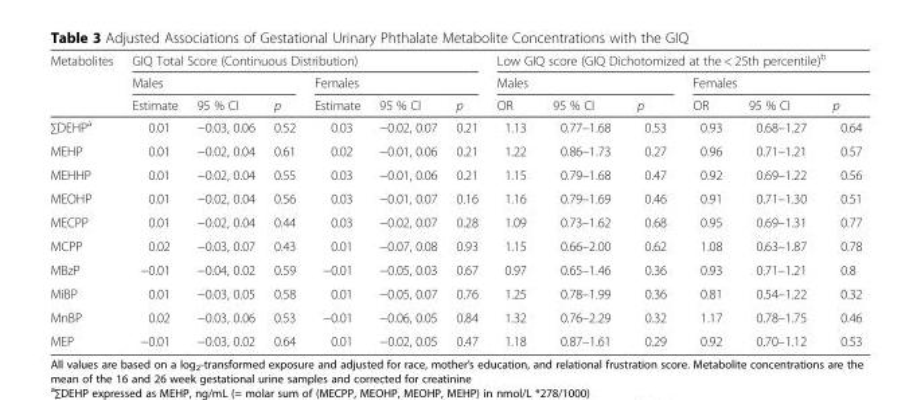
<table><thead><tr><td rowspan="3">Metabolites</td><td colspan="6">GIQ Total Score (Continuous Distribution)</td><td colspan="6">Low GIQ score (GIQ Dichotomized at the &lt; 25th percentile)<sup>b</sup></td></tr><tr><td colspan="3">Males</td><td colspan="3">Females</td><td colspan="3">Males</td><td colspan="3">Females</td></tr><tr><td>Estimate</td><td>95 % CI</td><td>p</td><td>Estimate</td><td>95 % CI</td><td>p</td><td>OR</td><td>95 % CI</td><td>p</td><td>OR</td><td>95 % CI</td><td>p</td></tr></thead><tbody><tr><td>∑DEHP<sup>a</sup></td><td>0.01</td><td>−0.03, 0.06</td><td>0.52</td><td>0.03</td><td>−0.02, 0.07</td><td>0.21</td><td>1.13</td><td>0.77–1.68</td><td>0.53</td><td>0.93</td><td>0.68–1.27</td><td>0.64</td></tr><tr><td>MEHP</td><td>0.01</td><td>−0.02, 0.04</td><td>0.61</td><td>0.02</td><td>−0.01, 0.06</td><td>0.21</td><td>1.22</td><td>0.86–1.73</td><td>0.27</td><td>0.96</td><td>0.71–1.21</td><td>0.57</td></tr><tr><td>MEHHP</td><td>0.01</td><td>−0.02, 0.04</td><td>0.55</td><td>0.03</td><td>−0.01, 0.06</td><td>0.21</td><td>1.15</td><td>0.79–1.68</td><td>0.47</td><td>0.92</td><td>0.69–1.22</td><td>0.56</td></tr><tr><td>MEOHP</td><td>0.01</td><td>−0.02, 0.04</td><td>0.56</td><td>0.03</td><td>−0.01, 0.07</td><td>0.16</td><td>1.16</td><td>0.79–1.69</td><td>0.46</td><td>0.91</td><td>0.71–1.30</td><td>0.51</td></tr><tr><td>MECPP</td><td>0.01</td><td>−0.02, 0.04</td><td>0.44</td><td>0.03</td><td>−0.02, 0.07</td><td>0.28</td><td>1.09</td><td>0.73–1.62</td><td>0.68</td><td>0.95</td><td>0.69–1.31</td><td>0.77</td></tr><tr><td>MCPP</td><td>0.02</td><td>−0.03, 0.07</td><td>0.43</td><td>0.01</td><td>−0.07, 0.08</td><td>0.93</td><td>1.15</td><td>0.66–2.00</td><td>0.62</td><td>1.08</td><td>0.63–1.87</td><td>0.78</td></tr><tr><td>MBzP</td><td>−0.01</td><td>−0.04, 0.02</td><td>0.59</td><td>−0.01</td><td>−0.05, 0.03</td><td>0.67</td><td>0.97</td><td>0.65–1.46</td><td>0.36</td><td>0.93</td><td>0.71–1.21</td><td>0.8</td></tr><tr><td>MiBP</td><td>0.01</td><td>−0.03, 0.05</td><td>0.58</td><td>0.01</td><td>−0.05, 0.07</td><td>0.76</td><td>1.25</td><td>0.78–1.99</td><td>0.36</td><td>0.81</td><td>0.54–1.22</td><td>0.32</td></tr><tr><td>MnBP</td><td>0.02</td><td>−0.03, 0.06</td><td>0.53</td><td>−0.01</td><td>−0.06, 0.05</td><td>0.84</td><td>1.32</td><td>0.76–2.29</td><td>0.32</td><td>1.17</td><td>0.78–1.75</td><td>0.46</td></tr><tr><td>MEP</td><td>−0.01</td><td>−0.03, 0.02</td><td>0.64</td><td>0.01</td><td>−0.02, 0.05</td><td>0.47</td><td>1.18</td><td>0.87–1.61</td><td>0.29</td><td>0.92</td><td>0.70–1.12</td><td>0.53</td></tr></tbody></table>